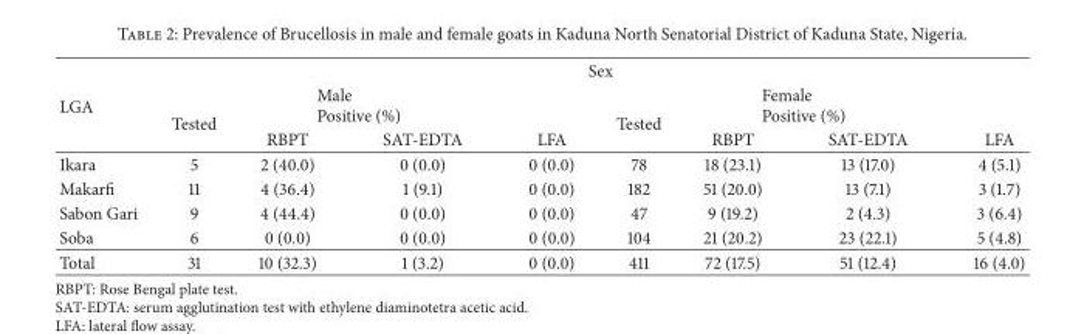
<table><thead><tr><td rowspan="3">LGA</td><td colspan="8">Sex</td></tr><tr><td rowspan="2">Tested</td><td colspan="2">Male Positive (%)</td><td rowspan="2">LFA</td><td rowspan="2">Tested</td><td colspan="2">Female Positive (%)</td><td rowspan="2">LFA</td></tr><tr><td>RBPT</td><td>SAT-EDTA</td><td>RBPT</td><td>SAT-EDTA</td></tr></thead><tbody><tr><td>Ikara</td><td>5</td><td>2 (40.0)</td><td>0 (0.0)</td><td>0 (0.0)</td><td>78</td><td>18 (23.1)</td><td>13 (17.0)</td><td>4 (5.1)</td></tr><tr><td>Makarfi</td><td>11</td><td>4 (36.4)</td><td>1 (9.1)</td><td>0 (0.0)</td><td>182</td><td>51 (20.0)</td><td>13 (7.1)</td><td>3 (1.7)</td></tr><tr><td>Sabon Gari</td><td>9</td><td>4 (44.4)</td><td>0 (0.0)</td><td>0 (0.0)</td><td>47</td><td>9 (19.2)</td><td>2 (4.3)</td><td>3 (6.4)</td></tr><tr><td>Soba</td><td>6</td><td>0 (0.0)</td><td>0 (0.0)</td><td>0 (0.0)</td><td>104</td><td>21 (20.2)</td><td>23 (22.1)</td><td>5 (4.8)</td></tr><tr><td>Total</td><td>31</td><td>10 (32.3)</td><td>1 (3.2)</td><td>0 (0.0)</td><td>411</td><td>72 (17.5)</td><td>51 (12.4)</td><td>16 (4.0)</td></tr></tbody></table>